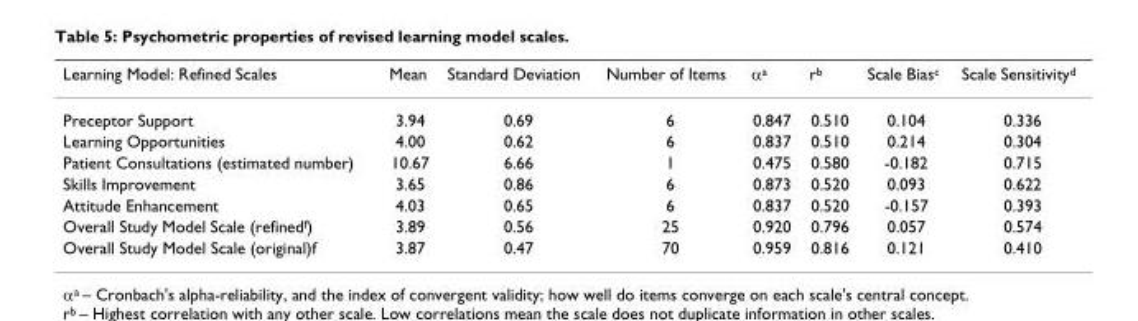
<table><thead><tr><td>Learning Model: Refined Scales</td><td>Mean</td><td>Standard Deviation</td><td>Number of Items</td><td>α<sup>a</sup></td><td>r<sup>b</sup></td><td>Scale Bias<sup>c</sup></td><td>Scale Sensitivity<sup>d</sup></td></tr></thead><tbody><tr><td>Preceptor Support</td><td>3.94</td><td>0.69</td><td>6</td><td>0.847</td><td>0.510</td><td>0.104</td><td>0.336</td></tr><tr><td>Learning Opportunities</td><td>4.00</td><td>0.62</td><td>6</td><td>0.837</td><td>0.510</td><td>0.214</td><td>0.304</td></tr><tr><td>Patient Consultations (estimated number)</td><td>10.67</td><td>6.66</td><td>1</td><td>0.475</td><td>0.580</td><td>-0.182</td><td>0.715</td></tr><tr><td>Skills Improvement</td><td>3.65</td><td>0.86</td><td>6</td><td>0.873</td><td>0.520</td><td>0.093</td><td>0.622</td></tr><tr><td>Attitude Enhancement</td><td>4.03</td><td>0.65</td><td>6</td><td>0.837</td><td>0.520</td><td>-0.157</td><td>0.393</td></tr><tr><td>Overall Study Model Scale (refined<sup>f</sup>)</td><td>3.89</td><td>0.56</td><td>25</td><td>0.920</td><td>0.796</td><td>0.057</td><td>0.574</td></tr><tr><td>Overall Study Model Scale (original)f</td><td>3.87</td><td>0.47</td><td>70</td><td>0.959</td><td>0.816</td><td>0.121</td><td>0.410</td></tr></tbody></table>